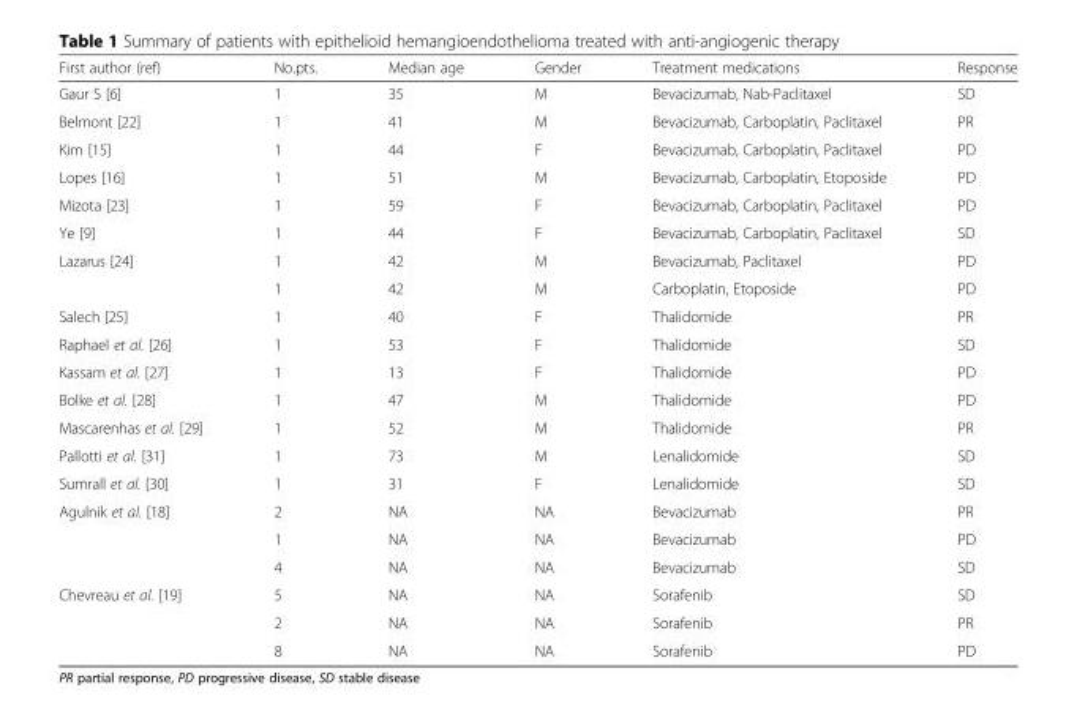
<table><thead><tr><td>First author (ref)</td><td>No.pts.</td><td>Median age</td><td>Gender</td><td>Treatment medications</td><td>Response</td></tr></thead><tbody><tr><td>Gaur S [6]</td><td>1</td><td>35</td><td>M</td><td>Bevacizumab, Nab-Paclitaxel</td><td>SD</td></tr><tr><td>Belmont [22]</td><td>1</td><td>41</td><td>M</td><td>Bevacizumab, Carboplatin, Paclitaxel</td><td>PR</td></tr><tr><td>Kim [15]</td><td>1</td><td>44</td><td>F</td><td>Bevacizumab, Carboplatin, Paclitaxel</td><td>PD</td></tr><tr><td>Lopes [16]</td><td>1</td><td>51</td><td>M</td><td>Bevacizumab, Carboplatin, Etoposide</td><td>PD</td></tr><tr><td>Mizota [23]</td><td>1</td><td>59</td><td>F</td><td>Bevacizumab, Carboplatin, Paclitaxel</td><td>PD</td></tr><tr><td>Ye [9]</td><td>1</td><td>44</td><td>F</td><td>Bevacizumab, Carboplatin, Paclitaxel</td><td>SD</td></tr><tr><td rowspan="2">Lazarus [24]</td><td>1</td><td>42</td><td>M</td><td>Bevacizumab, Paclitaxel</td><td>PD</td></tr><tr><td>1</td><td>42</td><td>M</td><td>Carboplatin, Etoposide</td><td>PD</td></tr><tr><td>Salech [25]</td><td>1</td><td>40</td><td>F</td><td>Thalidomide</td><td>PR</td></tr><tr><td>Raphael et al. [26]</td><td>1</td><td>53</td><td>F</td><td>Thalidomide</td><td>SD</td></tr><tr><td>Kassam et al. [27]</td><td>1</td><td>13</td><td>F</td><td>Thalidomide</td><td>PD</td></tr><tr><td>Bolke et al. [28]</td><td>1</td><td>47</td><td>M</td><td>Thalidomide</td><td>PD</td></tr><tr><td>Mascarenhas et al. [29]</td><td>1</td><td>52</td><td>M</td><td>Thalidomide</td><td>PR</td></tr><tr><td>Pallotti et al. [31]</td><td>1</td><td>73</td><td>M</td><td>Lenalidomide</td><td>SD</td></tr><tr><td>Sumrall et al. [30]</td><td>1</td><td>31</td><td>F</td><td>Lenalidomide</td><td>SD</td></tr><tr><td rowspan="3">Agulnik et al. [18]</td><td>2</td><td>NA</td><td>NA</td><td>Bevacizumab</td><td>PR</td></tr><tr><td>1</td><td>NA</td><td>NA</td><td>Bevacizumab</td><td>PD</td></tr><tr><td>4</td><td>NA</td><td>NA</td><td>Bevacizumab</td><td>SD</td></tr><tr><td rowspan="3">Chevreau et al. [19]</td><td>5</td><td>NA</td><td>NA</td><td>Sorafenib</td><td>SD</td></tr><tr><td>2</td><td>NA</td><td>NA</td><td>Sorafenib</td><td>PR</td></tr><tr><td>8</td><td>NA</td><td>NA</td><td>Sorafenib</td><td>PD</td></tr></tbody></table>